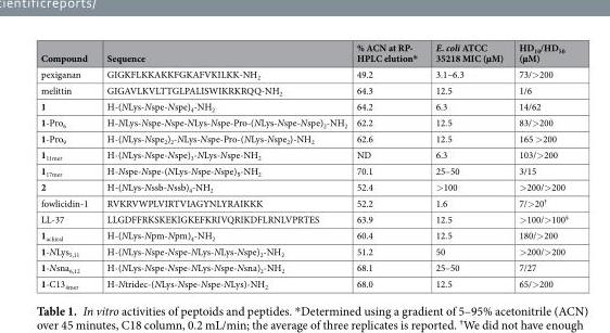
<table><thead><tr><td>Compound</td><td>Sequence</td><td>% ACN at RP- HPLC elution*</td><td>E. coli ATCC 35218 MIC (µM)</td><td>HD<sub>10</sub>/HD<sub>50</sub> (µM)</td></tr></thead><tbody><tr><td>pexiganan</td><td>GIGKFLKKAKKFGKAFVKILKK-NH<sub>2</sub></td><td>49.2</td><td>3.1–6.3</td><td>73/&gt;200</td></tr><tr><td>melittin</td><td>GIGAVLKVLTTGLPALISWIKRKRQQ-NH<sub>2</sub></td><td>64.3</td><td>12.5</td><td>1/6</td></tr><tr><td>1</td><td>H-(NLys-Nspe-Nspe)<sub>4</sub>-NH<sub>2</sub></td><td>64.2</td><td>6.3</td><td>14/62</td></tr><tr><td>1-Pro<sub>6</sub></td><td>H-NLys-Nspe-Nspe-NLys-Nspe-Pro-(NLys-Nspe-Nspe)<sub>2</sub>-NH<sub>2</sub></td><td>62.2</td><td>12.5</td><td>83/&gt;200</td></tr><tr><td>1-Pro<sub>9</sub></td><td>H-(NLys-Nspe<sub>2</sub>)<sub>2</sub>-NLys-Nspe-Pro-(NLys-Nspe<sub>2</sub>)-NH<sub>2</sub></td><td>62.6</td><td>12.5</td><td>165 &gt;200</td></tr><tr><td>1<sub>11mer</sub></td><td>H-(NLys-Nspe-Nspe)<sub>3</sub>-NLys-Nspe-NH<sub>2</sub></td><td>ND</td><td>6.3</td><td>103/&gt;200</td></tr><tr><td>1<sub>17mer</sub></td><td>H-Nspe-Nspe-(NLys-Nspe-Nspe)<sub>5</sub>-NH<sub>2</sub></td><td>70.1</td><td>25–50</td><td>3/15</td></tr><tr><td>2</td><td>H-(NLys-Nssb-Nssb)<sub>4</sub>-NH<sub>2</sub></td><td>52.4</td><td>&gt;100</td><td>&gt;200/&gt;200</td></tr><tr><td>fowlicidin-1</td><td>RVKRVWPLVIRTVIAGYNLYRAIKKK</td><td>52.2</td><td>1.6</td><td>7/&gt;20<sup>†</sup></td></tr><tr><td>LL-37</td><td>LLGDFFRKSKEKIGKEFKRIVQRIKDFLRNLVPRTES</td><td>63.9</td><td>12.5</td><td>&gt;100/&gt;100<sup>§</sup></td></tr><tr><td>1<sub>achiral</sub></td><td>H-(NLys-Npm-Npm)<sub>4</sub>-NH<sub>2</sub></td><td>60.4</td><td>12.5</td><td>180/&gt;200</td></tr><tr><td>1-NLys<sub>5,11</sub></td><td>H-(NLys-Nspe-Nspe-NLys-NLys-Nspe)<sub>2</sub>-NH<sub>2</sub></td><td>51.2</td><td>50</td><td>&gt;200/&gt;200</td></tr><tr><td>1-Nsna<sub>6,12</sub></td><td>H-(NLys-Nspe-Nspe-NLys-Nspe-Nsna)<sub>2</sub>-NH<sub>2</sub></td><td>68.1</td><td>25–50</td><td>7/27</td></tr><tr><td>1-C13<sub>4mer</sub></td><td>H-Ntridec-(NLys-Nspe-Nspe-NLys)-NH<sub>2</sub></td><td>68.0</td><td>12.5</td><td>65/&gt;200</td></tr></tbody></table>